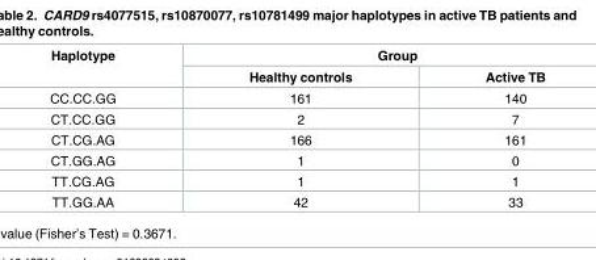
<table><thead><tr><td rowspan="2">Haplotype</td><td colspan="2">Group</td></tr><tr><td>Healthy controls</td><td>Active TB</td></tr></thead><tbody><tr><td>CC.CC.GG</td><td>161</td><td>140</td></tr><tr><td>CT.CC.GG</td><td>2</td><td>7</td></tr><tr><td>CT.CG.AG</td><td>166</td><td>161</td></tr><tr><td>CT.GG.AG</td><td>1</td><td>0</td></tr><tr><td>TT.CG.AG</td><td>1</td><td>1</td></tr><tr><td>TT.GG.AA</td><td>42</td><td>33</td></tr></tbody></table>